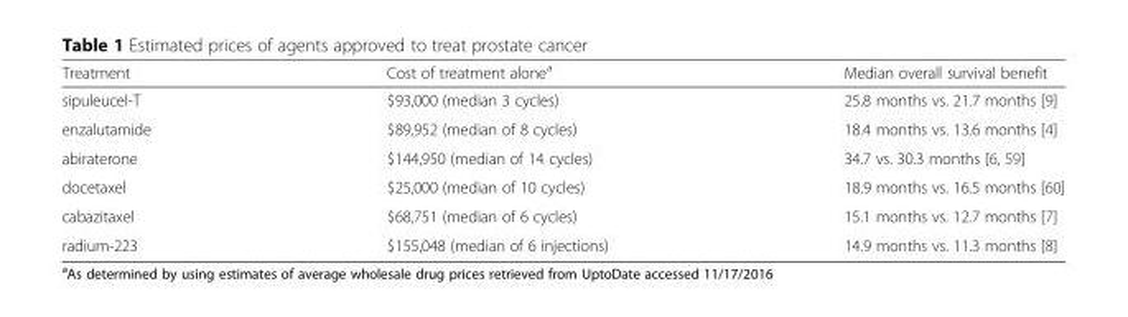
<table><thead><tr><td>Treatment</td><td>Cost of treatment alone<sup>a</sup></td><td>Median overall survival benefit</td></tr></thead><tbody><tr><td>sipuleucel-T</td><td>$93,000 (median 3 cycles)</td><td>25.8 months vs. 21.7 months [9]</td></tr><tr><td>enzalutamide</td><td>$89,952 (median of 8 cycles)</td><td>18.4 months vs. 13.6 months [4]</td></tr><tr><td>abiraterone</td><td>$144,950 (median of 14 cycles)</td><td>34.7 vs. 30.3 months [6, 59]</td></tr><tr><td>docetaxel</td><td>$25,000 (median of 10 cycles)</td><td>18.9 months vs. 16.5 months [60]</td></tr><tr><td>cabazitaxel</td><td>$68,751 (median of 6 cycles)</td><td>15.1 months vs. 12.7 months [7]</td></tr><tr><td>radium-223</td><td>$155,048 (median of 6 injections)</td><td>14.9 months vs. 11.3 months [8]</td></tr></tbody></table>